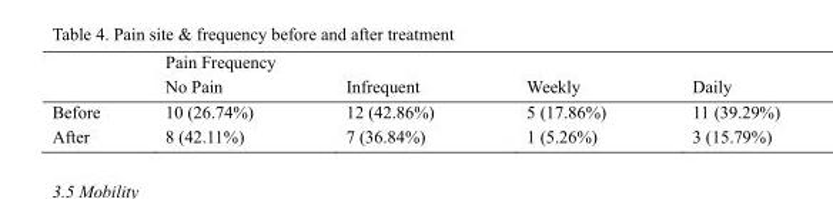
<table><thead><tr><td></td><td>Pain Frequency No Pain</td><td>Infrequent</td><td>Weekly</td><td>Daily</td></tr></thead><tbody><tr><td>Before</td><td>10 (26.74%)</td><td>12 (42.86%)</td><td>5 (17.86%)</td><td>11 (39.29%)</td></tr><tr><td>After</td><td>8 (42.11%)</td><td>7 (36.84%)</td><td>1 (5.26%)</td><td>3 (15.79%)</td></tr></tbody></table>